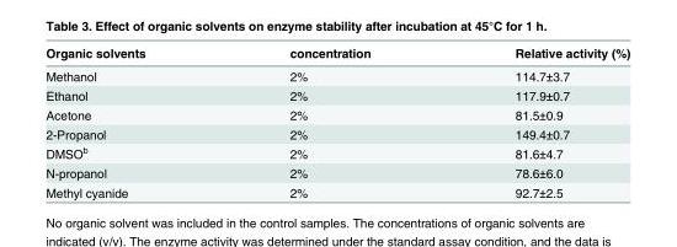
<table><thead><tr><td>Organic solvents</td><td>concentration</td><td>Relative activity (%)</td></tr></thead><tbody><tr><td>Methanol</td><td>2%</td><td>114.7±3.7</td></tr><tr><td>Ethanol</td><td>2%</td><td>117.9±0.7</td></tr><tr><td>Acetone</td><td>2%</td><td>81.5±0.9</td></tr><tr><td>2-Propanol</td><td>2%</td><td>149.4±0.7</td></tr><tr><td>DMSO<sup>b</sup></td><td>2%</td><td>81.6±4.7</td></tr><tr><td>N-propanol</td><td>2%</td><td>78.6±6.0</td></tr><tr><td>Methyl cyanide</td><td>2%</td><td>92.7±2.5</td></tr></tbody></table>